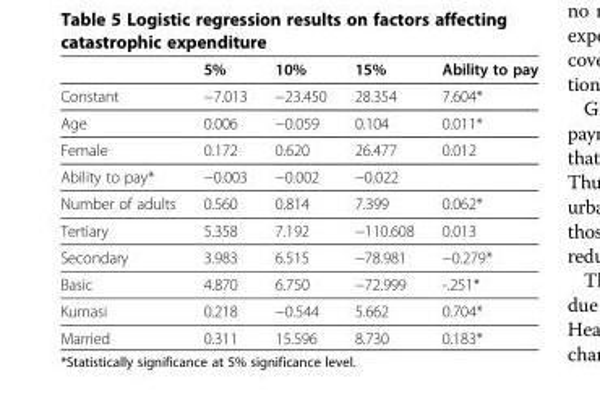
<table><thead><tr><td></td><td>5%</td><td>10%</td><td>15%</td><td>Ability to pay</td></tr></thead><tbody><tr><td>Constant</td><td>−7.013</td><td>−23.450</td><td>28.354</td><td>7.604*</td></tr><tr><td>Age</td><td>0.006</td><td>−0.059</td><td>0.104</td><td>0.011*</td></tr><tr><td>Female</td><td>0.172</td><td>0.620</td><td>26.477</td><td>0.012</td></tr><tr><td>Ability to pay*</td><td>−0.003</td><td>−0.002</td><td>−0.022</td><td></td></tr><tr><td>Number of adults</td><td>0.560</td><td>0.814</td><td>7.399</td><td>0.062*</td></tr><tr><td>Tertiary</td><td>5.358</td><td>7.192</td><td>−110.608</td><td>0.013</td></tr><tr><td>Secondary</td><td>3.983</td><td>6.515</td><td>−78.981</td><td>−0.279*</td></tr><tr><td>Basic</td><td>4.870</td><td>6.750</td><td>−72.999</td><td>-.251*</td></tr><tr><td>Kumasi</td><td>0.218</td><td>−0.544</td><td>5.662</td><td>0.704*</td></tr><tr><td>Married</td><td>0.311</td><td>15.596</td><td>8.730</td><td>0.183*</td></tr></tbody></table>